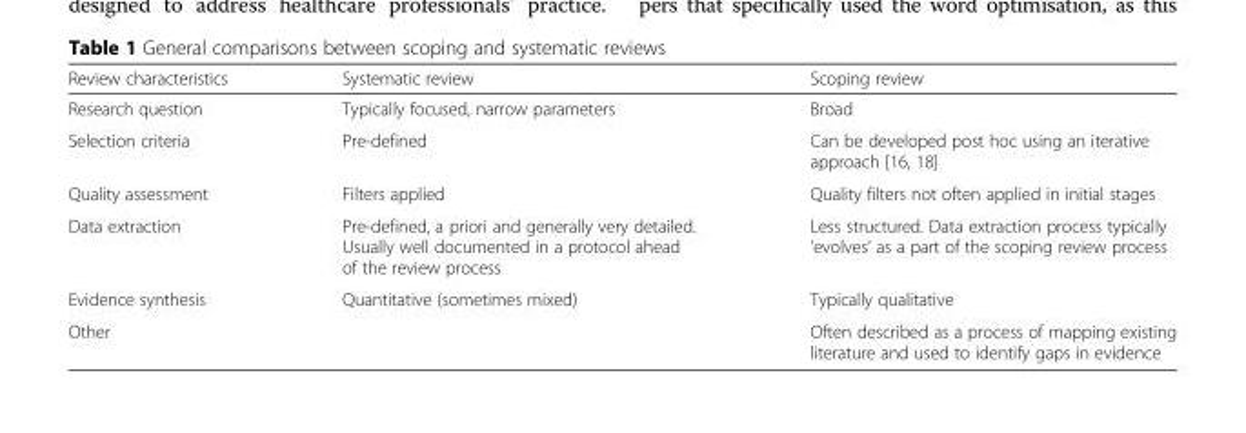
<table><thead><tr><td>Review characteristics</td><td>Systematic review</td><td>Scoping review</td></tr></thead><tbody><tr><td>Research question</td><td>Typically focused, narrow parameters</td><td>Broad</td></tr><tr><td>Selection criteria</td><td>Pre-defined</td><td>Can be developed post hoc using an iterative approach [16, 18]</td></tr><tr><td>Quality assessment</td><td>Filters applied</td><td>Quality filters not often applied in initial stages</td></tr><tr><td>Data extraction</td><td>Pre-defined, a priori and generally very detailed. Usually well documented in a protocol ahead of the review process</td><td>Less structured. Data extraction process typically ‘evolves’ as a part of the scoping review process</td></tr><tr><td>Evidence synthesis</td><td>Quantitative (sometimes mixed)</td><td>Typically qualitative</td></tr><tr><td>Other</td><td></td><td>Often described as a process of mapping existing literature and used to identify gaps in evidence</td></tr></tbody></table>